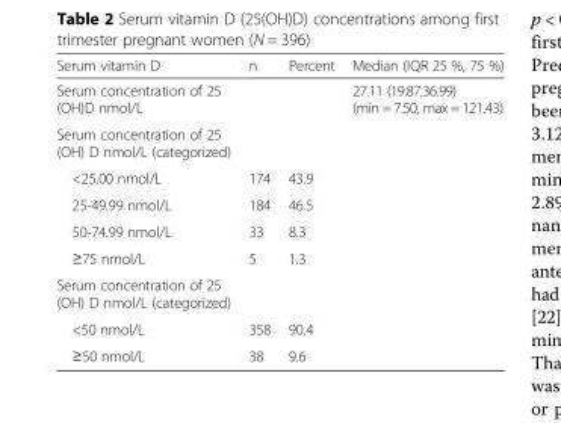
<table><thead><tr><td>Serum vitamin D</td><td>n</td><td>Percent</td><td>Median (IQR 25 %, 75 %)</td></tr></thead><tbody><tr><td>Serum concentration of 25 (OH)D nmol/L</td><td></td><td></td><td>27.11 (19.87,36.99) (min = 7.50, max = 121.43)</td></tr><tr><td colspan="4">Serum concentration of 25 (OH) D nmol/L (categorized)</td></tr><tr><td>&lt;25.00 nmol/L</td><td>174</td><td>43.9</td><td></td></tr><tr><td>25-49.99 nmol/L</td><td>184</td><td>46.5</td><td></td></tr><tr><td>50-74.99 nmol/L</td><td>33</td><td>8.3</td><td></td></tr><tr><td>≥75 nmol/L</td><td>5</td><td>1.3</td><td></td></tr><tr><td colspan="4">Serum concentration of 25 (OH) D nmol/L (categorized)</td></tr><tr><td>&lt;50 nmol/L</td><td>358</td><td>90.4</td><td></td></tr><tr><td>≥50 nmol/L</td><td>38</td><td>9.6</td><td></td></tr></tbody></table>